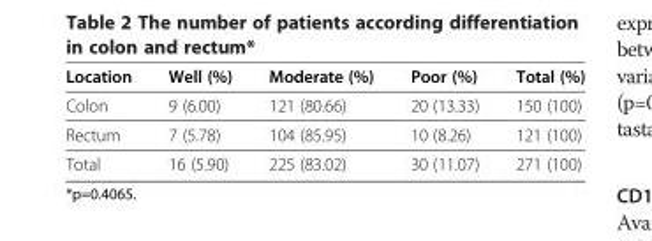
<table><thead><tr><td>Location</td><td>Well (%)</td><td>Moderate (%)</td><td>Poor (%)</td><td>Total (%)</td></tr></thead><tbody><tr><td>Colon</td><td>9 (6.00)</td><td>121 (80.66)</td><td>20 (13.33)</td><td>150 (100)</td></tr><tr><td>Rectum</td><td>7 (5.78)</td><td>104 (85.95)</td><td>10 (8.26)</td><td>121 (100)</td></tr><tr><td>Total</td><td>16 (5.90)</td><td>225 (83.02)</td><td>30 (11.07)</td><td>271 (100)</td></tr></tbody></table>